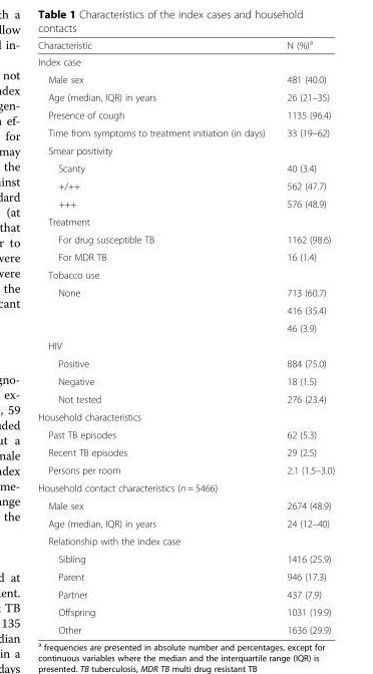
<table><thead><tr><td>Characteristic</td><td>N (%)<sup>a</sup></td></tr></thead><tbody><tr><td colspan="2">Index case</td></tr><tr><td>Male sex</td><td>481 (40.0)</td></tr><tr><td>Age (median, IQR) in years</td><td>26 (21–35)</td></tr><tr><td>Presence of cough</td><td>1135 (96.4)</td></tr><tr><td>Time from symptoms to treatment initiation (in days)</td><td>33 (19–62)</td></tr><tr><td colspan="2">Smear positivity</td></tr><tr><td>Scanty</td><td>40 (3.4)</td></tr><tr><td>+/++</td><td>562 (47.7)</td></tr><tr><td>+++</td><td>576 (48.9)</td></tr><tr><td colspan="2">Treatment</td></tr><tr><td>For drug susceptible TB</td><td>1162 (98.6)</td></tr><tr><td>For MDR TB</td><td>16 (1.4)</td></tr><tr><td colspan="2">Tobacco use</td></tr><tr><td rowspan="3">None</td><td>713 (60.7)</td></tr><tr><td>416 (35.4)</td></tr><tr><td>46 (3.9)</td></tr><tr><td colspan="2">HIV</td></tr><tr><td>Positive</td><td>884 (75.0)</td></tr><tr><td>Negative</td><td>18 (1.5)</td></tr><tr><td>Not tested</td><td>276 (23.4)</td></tr><tr><td colspan="2">Household characteristics</td></tr><tr><td>Past TB episodes</td><td>62 (5.3)</td></tr><tr><td>Recent TB episodes</td><td>29 (2.5)</td></tr><tr><td>Persons per room</td><td>2.1 (1.5–3.0)</td></tr><tr><td colspan="2">Household contact characteristics (n = 5466)</td></tr><tr><td>Male sex</td><td>2674 (48.9)</td></tr><tr><td>Age (median, IQR) in years</td><td>24 (12–40)</td></tr><tr><td colspan="2">Relationship with the index case</td></tr><tr><td>Sibling</td><td>1416 (25.9)</td></tr><tr><td>Parent</td><td>946 (17.3)</td></tr><tr><td>Partner</td><td>437 (7.9)</td></tr><tr><td>Offspring</td><td>1031 (19.9)</td></tr><tr><td>Other</td><td>1636 (29.9)</td></tr></tbody></table>